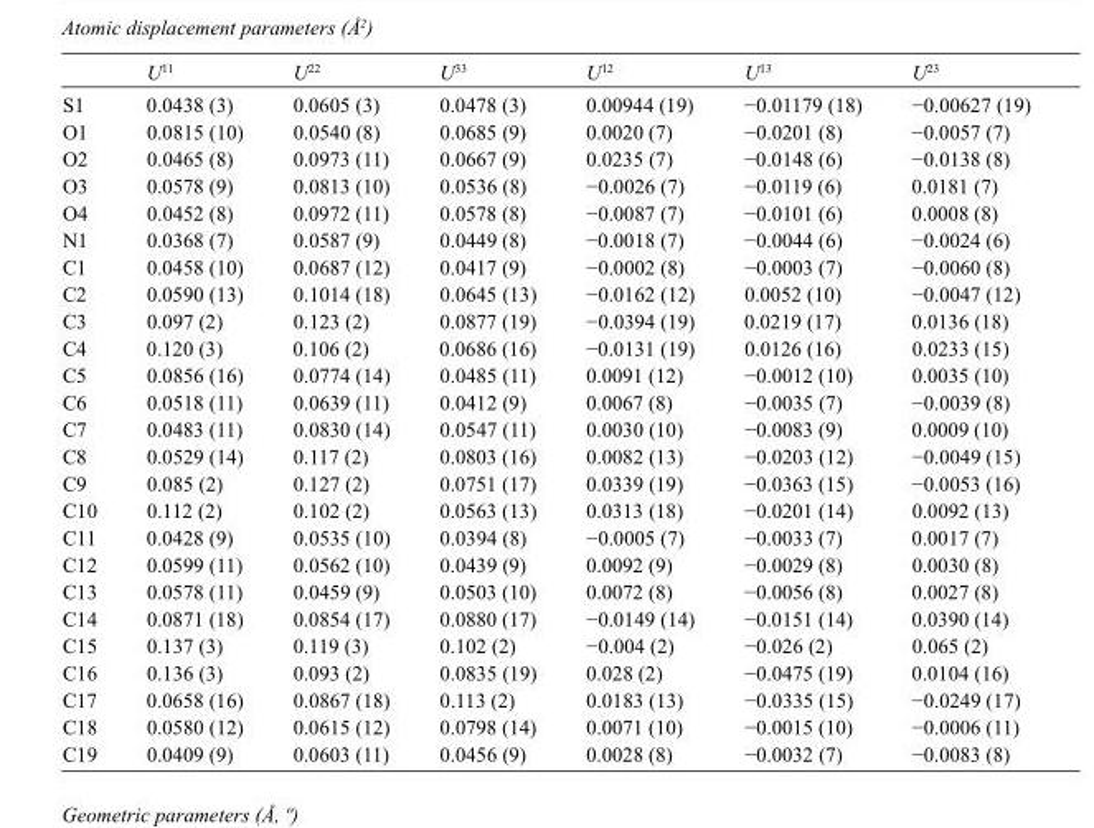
<table><thead><tr><td></td><td>U<sup>11</sup></td><td>U<sup>22</sup></td><td>U<sup>33</sup></td><td>U<sup>12</sup></td><td>U<sup>13</sup></td><td>U<sup>23</sup></td></tr></thead><tbody><tr><td>S1</td><td>0.0438 (3)</td><td>0.0605 (3)</td><td>0.0478 (3)</td><td>0.00944 (19)</td><td>−0.01179 (18)</td><td>−0.00627 (19)</td></tr><tr><td>O1</td><td>0.0815 (10)</td><td>0.0540 (8)</td><td>0.0685 (9)</td><td>0.0020 (7)</td><td>−0.0201 (8)</td><td>−0.0057 (7)</td></tr><tr><td>O2</td><td>0.0465 (8)</td><td>0.0973 (11)</td><td>0.0667 (9)</td><td>0.0235 (7)</td><td>−0.0148 (6)</td><td>−0.0138 (8)</td></tr><tr><td>O3</td><td>0.0578 (9)</td><td>0.0813 (10)</td><td>0.0536 (8)</td><td>−0.0026 (7)</td><td>−0.0119 (6)</td><td>0.0181 (7)</td></tr><tr><td>O4</td><td>0.0452 (8)</td><td>0.0972 (11)</td><td>0.0578 (8)</td><td>−0.0087 (7)</td><td>−0.0101 (6)</td><td>0.0008 (8)</td></tr><tr><td>N1</td><td>0.0368 (7)</td><td>0.0587 (9)</td><td>0.0449 (8)</td><td>−0.0018 (7)</td><td>−0.0044 (6)</td><td>−0.0024 (6)</td></tr><tr><td>C1</td><td>0.0458 (10)</td><td>0.0687 (12)</td><td>0.0417 (9)</td><td>−0.0002 (8)</td><td>−0.0003 (7)</td><td>−0.0060 (8)</td></tr><tr><td>C2</td><td>0.0590 (13)</td><td>0.1014 (18)</td><td>0.0645 (13)</td><td>−0.0162 (12)</td><td>0.0052 (10)</td><td>−0.0047 (12)</td></tr><tr><td>C3</td><td>0.097 (2)</td><td>0.123 (2)</td><td>0.0877 (19)</td><td>−0.0394 (19)</td><td>0.0219 (17)</td><td>0.0136 (18)</td></tr><tr><td>C4</td><td>0.120 (3)</td><td>0.106 (2)</td><td>0.0686 (16)</td><td>−0.0131 (19)</td><td>0.0126 (16)</td><td>0.0233 (15)</td></tr><tr><td>C5</td><td>0.0856 (16)</td><td>0.0774 (14)</td><td>0.0485 (11)</td><td>0.0091 (12)</td><td>−0.0012 (10)</td><td>0.0035 (10)</td></tr><tr><td>C6</td><td>0.0518 (11)</td><td>0.0639 (11)</td><td>0.0412 (9)</td><td>0.0067 (8)</td><td>−0.0035 (7)</td><td>−0.0039 (8)</td></tr><tr><td>C7</td><td>0.0483 (11)</td><td>0.0830 (14)</td><td>0.0547 (11)</td><td>0.0030 (10)</td><td>−0.0083 (9)</td><td>0.0009 (10)</td></tr><tr><td>C8</td><td>0.0529 (14)</td><td>0.117 (2)</td><td>0.0803 (16)</td><td>0.0082 (13)</td><td>−0.0203 (12)</td><td>−0.0049 (15)</td></tr><tr><td>C9</td><td>0.085 (2)</td><td>0.127 (2)</td><td>0.0751 (17)</td><td>0.0339 (19)</td><td>−0.0363 (15)</td><td>−0.0053 (16)</td></tr><tr><td>C10</td><td>0.112 (2)</td><td>0.102 (2)</td><td>0.0563 (13)</td><td>0.0313 (18)</td><td>−0.0201 (14)</td><td>0.0092 (13)</td></tr><tr><td>C11</td><td>0.0428 (9)</td><td>0.0535 (10)</td><td>0.0394 (8)</td><td>−0.0005 (7)</td><td>−0.0033 (7)</td><td>0.0017 (7)</td></tr><tr><td>C12</td><td>0.0599 (11)</td><td>0.0562 (10)</td><td>0.0439 (9)</td><td>0.0092 (9)</td><td>−0.0029 (8)</td><td>0.0030 (8)</td></tr><tr><td>C13</td><td>0.0578 (11)</td><td>0.0459 (9)</td><td>0.0503 (10)</td><td>0.0072 (8)</td><td>−0.0056 (8)</td><td>0.0027 (8)</td></tr><tr><td>C14</td><td>0.0871 (18)</td><td>0.0854 (17)</td><td>0.0880 (17)</td><td>−0.0149 (14)</td><td>−0.0151 (14)</td><td>0.0390 (14)</td></tr><tr><td>C15</td><td>0.137 (3)</td><td>0.119 (3)</td><td>0.102 (2)</td><td>−0.004 (2)</td><td>−0.026 (2)</td><td>0.065 (2)</td></tr><tr><td>C16</td><td>0.136 (3)</td><td>0.093 (2)</td><td>0.0835 (19)</td><td>0.028 (2)</td><td>−0.0475 (19)</td><td>0.0104 (16)</td></tr><tr><td>C17</td><td>0.0658 (16)</td><td>0.0867 (18)</td><td>0.113 (2)</td><td>0.0183 (13)</td><td>−0.0335 (15)</td><td>−0.0249 (17)</td></tr><tr><td>C18</td><td>0.0580 (12)</td><td>0.0615 (12)</td><td>0.0798 (14)</td><td>0.0071 (10)</td><td>−0.0015 (10)</td><td>−0.0006 (11)</td></tr><tr><td>C19</td><td>0.0409 (9)</td><td>0.0603 (11)</td><td>0.0456 (9)</td><td>0.0028 (8)</td><td>−0.0032 (7)</td><td>−0.0083 (8)</td></tr></tbody></table>